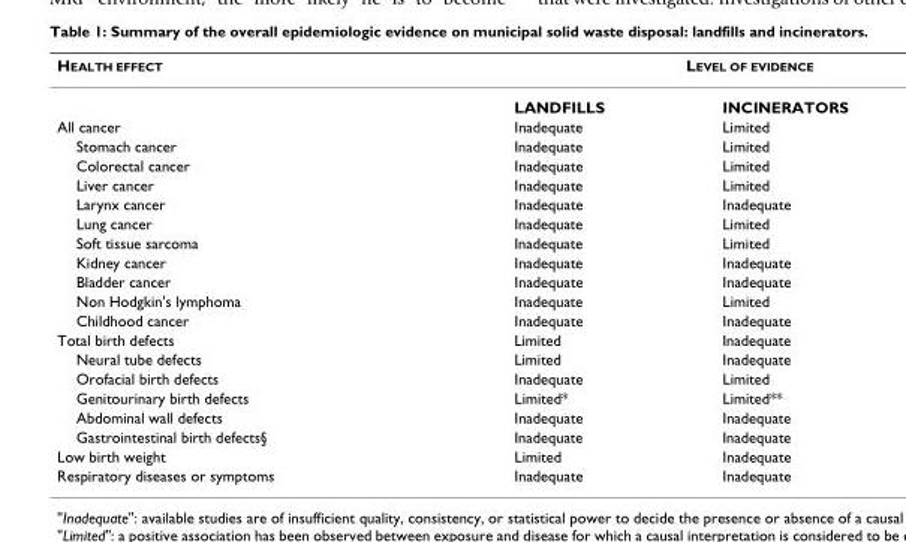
<table><thead><tr><td rowspan="2">HEALTH EFFECT</td><td colspan="2">LEVEL OF EVIDENCE</td></tr><tr><td>LANDFILLS</td><td>INCINERATORS</td></tr></thead><tbody><tr><td>All cancer</td><td>Inadequate</td><td>Limited</td></tr><tr><td>Stomach cancer</td><td>Inadequate</td><td>Limited</td></tr><tr><td>Colorectal cancer</td><td>Inadequate</td><td>Limited</td></tr><tr><td>Liver cancer</td><td>Inadequate</td><td>Limited</td></tr><tr><td>Larynx cancer</td><td>Inadequate</td><td>Inadequate</td></tr><tr><td>Lung cancer</td><td>Inadequate</td><td>Limited</td></tr><tr><td>Soft tissue sarcoma</td><td>Inadequate</td><td>Limited</td></tr><tr><td>Kidney cancer</td><td>Inadequate</td><td>Inadequate</td></tr><tr><td>Bladder cancer</td><td>Inadequate</td><td>Inadequate</td></tr><tr><td>Non Hodgkin&#x27;s lymphoma</td><td>Inadequate</td><td>Limited</td></tr><tr><td>Childhood cancer</td><td>Inadequate</td><td>Inadequate</td></tr><tr><td>Total birth defects</td><td>Limited</td><td>Inadequate</td></tr><tr><td>Neural tube defects</td><td>Limited</td><td>Inadequate</td></tr><tr><td>Orofacial birth defects</td><td>Inadequate</td><td>Limited</td></tr><tr><td>Genitourinary birth defects</td><td>Limited*</td><td>Limited**</td></tr><tr><td>Abdominal wall defects</td><td>Inadequate</td><td>Inadequate</td></tr><tr><td>Gastrointestinal birth defects§</td><td>Inadequate</td><td>Inadequate</td></tr><tr><td>Low birth weight</td><td>Limited</td><td>Inadequate</td></tr><tr><td>Respiratory diseases or symptoms</td><td>Inadequate</td><td>Inadequate</td></tr></tbody></table>